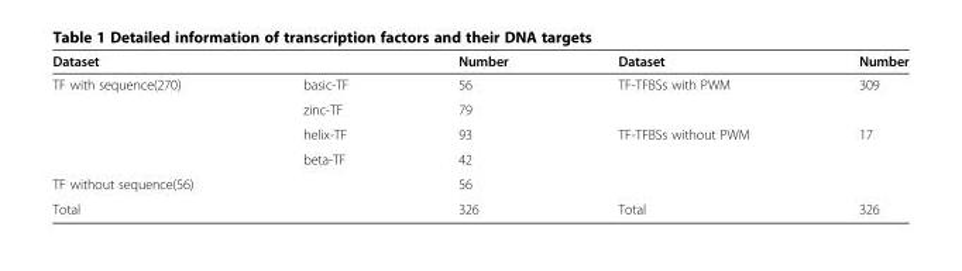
<table><thead><tr><td>Dataset</td><td></td><td>Number</td><td>Dataset</td><td>Number</td></tr></thead><tbody><tr><td rowspan="4">TF with sequence(270)</td><td>basic-TF</td><td>56</td><td>TF-TFBSs with PWM</td><td>309</td></tr><tr><td>zinc-TF</td><td>79</td><td></td><td></td></tr><tr><td>helix-TF</td><td>93</td><td>TF-TFBSs without PWM</td><td>17</td></tr><tr><td>beta-TF</td><td>42</td><td></td><td></td></tr><tr><td>TF without sequence(56)</td><td></td><td>56</td><td></td><td></td></tr><tr><td>Total</td><td></td><td>326</td><td>Total</td><td>326</td></tr></tbody></table>